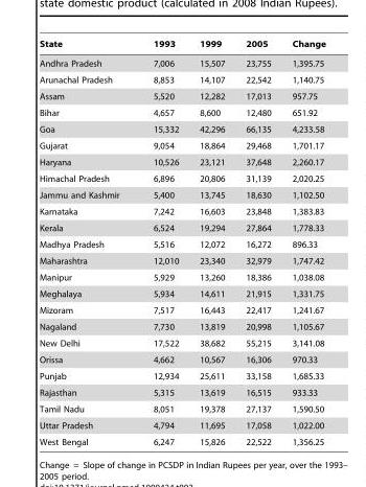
<table><thead><tr><td>State</td><td>1993</td><td>1999</td><td>2005</td><td>Change</td></tr></thead><tbody><tr><td>Andhra Pradesh</td><td>7,006</td><td>15,507</td><td>23,755</td><td>1,395.75</td></tr><tr><td>Arunachal Pradesh</td><td>8,853</td><td>14,107</td><td>22,542</td><td>1,140.75</td></tr><tr><td>Assam</td><td>5,520</td><td>12,282</td><td>17,013</td><td>957.75</td></tr><tr><td>Bihar</td><td>4,657</td><td>8,600</td><td>12,480</td><td>651.92</td></tr><tr><td>Goa</td><td>15,332</td><td>42,296</td><td>66,135</td><td>4,233.58</td></tr><tr><td>Gujarat</td><td>9,054</td><td>18,864</td><td>29,468</td><td>1,701.17</td></tr><tr><td>Haryana</td><td>10,526</td><td>23,121</td><td>37,648</td><td>2,260.17</td></tr><tr><td>Himachal Pradesh</td><td>6,896</td><td>20,806</td><td>31,139</td><td>2,020.25</td></tr><tr><td>Jammu and Kashmir</td><td>5,400</td><td>13,745</td><td>18,630</td><td>1,102.50</td></tr><tr><td>Karnataka</td><td>7,242</td><td>16,603</td><td>23,848</td><td>1,383.83</td></tr><tr><td>Kerala</td><td>6,524</td><td>19,294</td><td>27,864</td><td>1,778.33</td></tr><tr><td>Madhya Pradesh</td><td>5,516</td><td>12,072</td><td>16,272</td><td>896.33</td></tr><tr><td>Maharashtra</td><td>12,010</td><td>23,340</td><td>32,979</td><td>1,747.42</td></tr><tr><td>Manipur</td><td>5,929</td><td>13,260</td><td>18,386</td><td>1,038.08</td></tr><tr><td>Meghalaya</td><td>5,934</td><td>14,611</td><td>21,915</td><td>1,331.75</td></tr><tr><td>Mizoram</td><td>7,517</td><td>16,443</td><td>22,417</td><td>1,241.67</td></tr><tr><td>Nagaland</td><td>7,730</td><td>13,819</td><td>20,998</td><td>1,105.67</td></tr><tr><td>New Delhi</td><td>17,522</td><td>38,682</td><td>55,215</td><td>3,141.08</td></tr><tr><td>Orissa</td><td>4,662</td><td>10,567</td><td>16,306</td><td>970.33</td></tr><tr><td>Punjab</td><td>12,934</td><td>25,611</td><td>33,158</td><td>1,685.33</td></tr><tr><td>Rajasthan</td><td>5,315</td><td>13,619</td><td>16,515</td><td>933.33</td></tr><tr><td>Tamil Nadu</td><td>8,051</td><td>19,378</td><td>27,137</td><td>1,590.50</td></tr><tr><td>Uttar Pradesh</td><td>4,794</td><td>11,695</td><td>17,058</td><td>1,022.00</td></tr><tr><td>West Bengal</td><td>6,247</td><td>15,826</td><td>22,522</td><td>1,356.25</td></tr></tbody></table>